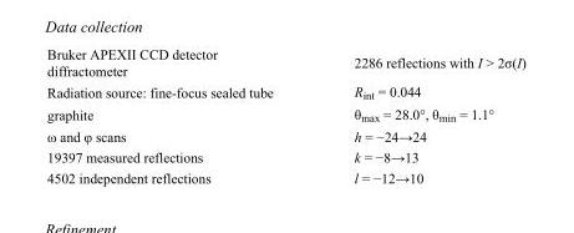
<table><tbody><tr><td>Bruker APEXII CCD detector diffractometer</td><td>2286 reflections with I &gt; 2σ(I)</td></tr><tr><td>Radiation source: fine-focus sealed tube</td><td>R<sub>int</sub> = 0.044</td></tr><tr><td>graphite</td><td>θ<sub>max</sub> = 28.0°, θ<sub>min</sub> = 1.1°</td></tr><tr><td>ω and φ scans</td><td>h = −24→24</td></tr><tr><td>19397 measured reflections</td><td>k = −8→13</td></tr><tr><td>4502 independent reflections</td><td>l = −12→10</td></tr></tbody></table>